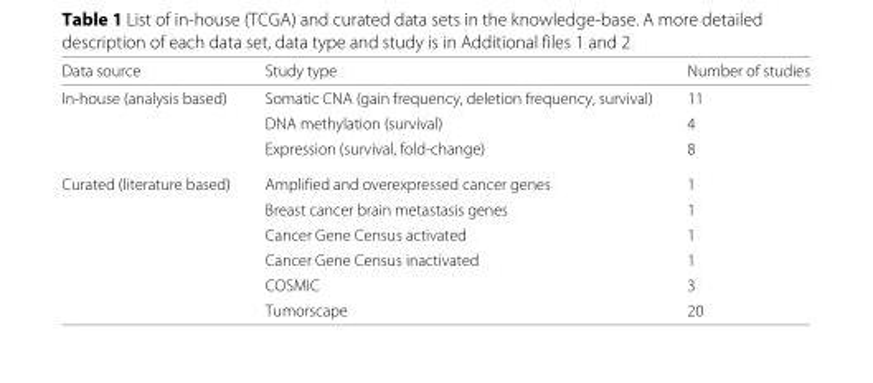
<table><thead><tr><td>Data source</td><td>Study type</td><td>Number of studies</td></tr></thead><tbody><tr><td rowspan="3">In-house (analysis based)</td><td>Somatic CNA (gain frequency, deletion frequency, survival)</td><td>11</td></tr><tr><td>DNA methylation (survival)</td><td>4</td></tr><tr><td>Expression (survival, fold-change)</td><td>8</td></tr><tr><td rowspan="6">Curated (literature based)</td><td>Amplified and overexpressed cancer genes</td><td>1</td></tr><tr><td>Breast cancer brain metastasis genes</td><td>1</td></tr><tr><td>Cancer Gene Census activated</td><td>1</td></tr><tr><td>Cancer Gene Census inactivated</td><td>1</td></tr><tr><td>COSMIC</td><td>3</td></tr><tr><td>Tumorscape</td><td>20</td></tr></tbody></table>